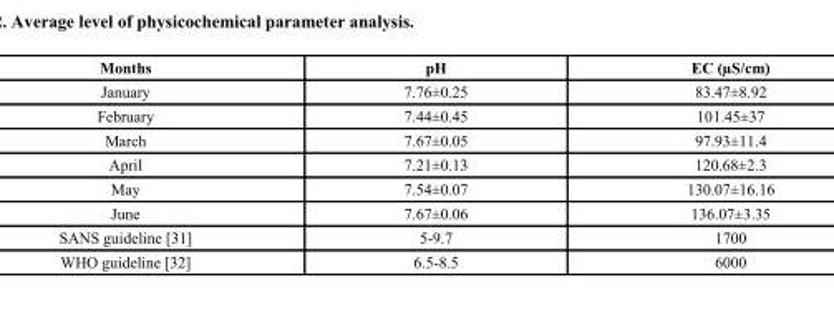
<table><thead><tr><td>Months</td><td>pH</td><td>EC (µS/cm)</td></tr></thead><tbody><tr><td>January</td><td>7.76±0.25</td><td>83.47±8.92</td></tr><tr><td>February</td><td>7.44±0.45</td><td>101.45±37</td></tr><tr><td>March</td><td>7.67±0.05</td><td>97.93±11.4</td></tr><tr><td>April</td><td>7.21±0.13</td><td>120.68±2.3</td></tr><tr><td>May</td><td>7.54±0.07</td><td>130.07±16.16</td></tr><tr><td>June</td><td>7.67±0.06</td><td>136.07±3.35</td></tr><tr><td>SANS guideline [31]</td><td>5-9.7</td><td>1700</td></tr><tr><td>WHO guideline [32]</td><td>6.5-8.5</td><td>6000</td></tr></tbody></table>